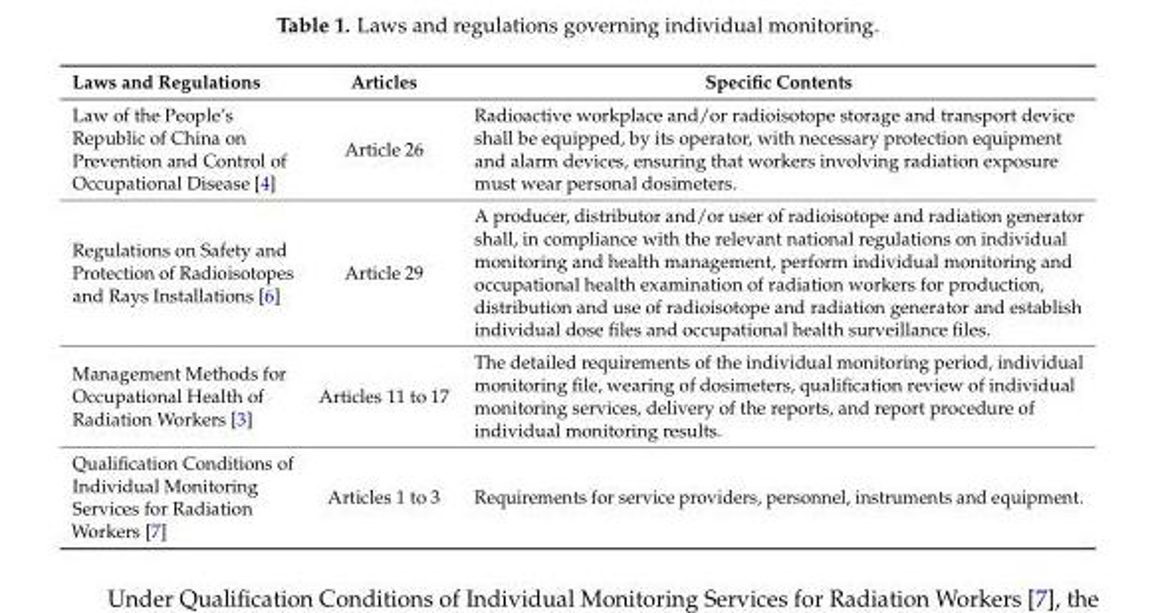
<table><thead><tr><td>Laws and Regulations</td><td>Articles</td><td>Specific Contents</td></tr></thead><tbody><tr><td>Law of the People’s Republic of China on Prevention and Control of Occupational Disease [4]</td><td>Article 26</td><td>Radioactive workplace and/or radioisotope storage and transport device shall be equipped, by its operator, with necessary protection equipment and alarm devices, ensuring that workers involving radiation exposure must wear personal dosimeters.</td></tr><tr><td>Regulations on Safety and Protection of Radioisotopes and Rays Installations [6]</td><td>Article 29</td><td>A producer, distributor and/or user of radioisotope and radiation generator shall, in compliance with the relevant national regulations on individual monitoring and health management, perform individual monitoring and occupational health examination of radiation workers for production, distribution and use of radioisotope and radiation generator and establish individual dose files and occupational health surveillance files.</td></tr><tr><td>Management Methods for Occupational Health of Radiation Workers [3]</td><td>Articles 11 to 17</td><td>The detailed requirements of the individual monitoring period, individual monitoring file, wearing of dosimeters, qualification review of individual monitoring services, delivery of the reports, and report procedure of individual monitoring results.</td></tr><tr><td>Qualification Conditions of Individual Monitoring Services for Radiation Workers [7]</td><td>Articles 1 to 3</td><td>Requirements for service providers, personnel, instruments and equipment.</td></tr></tbody></table>